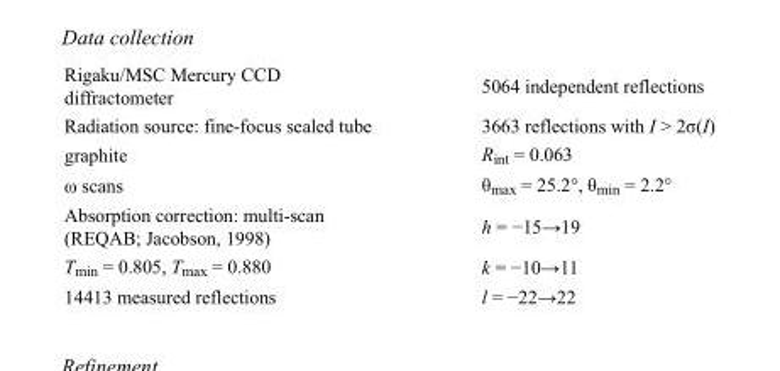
<table><tbody><tr><td>Rigaku/MSC Mercury CCD diffractometer</td><td>5064 independent reflections</td></tr><tr><td>Radiation source: fine-focus sealed tube</td><td>3663 reflections with I &gt; 2σ(I)</td></tr><tr><td>graphite</td><td>R<sub>int</sub> = 0.063</td></tr><tr><td>ω scans</td><td>θ<sub>max</sub> = 25.2°, θ<sub>min</sub> = 2.2°</td></tr><tr><td>Absorption correction: multi-scan (REQAB; Jacobson, 1998)</td><td>h = −15→19</td></tr><tr><td>T<sub>min</sub> = 0.805, T<sub>max</sub> = 0.880</td><td>k = −10→11</td></tr><tr><td>14413 measured reflections</td><td>l = −22→22</td></tr></tbody></table>